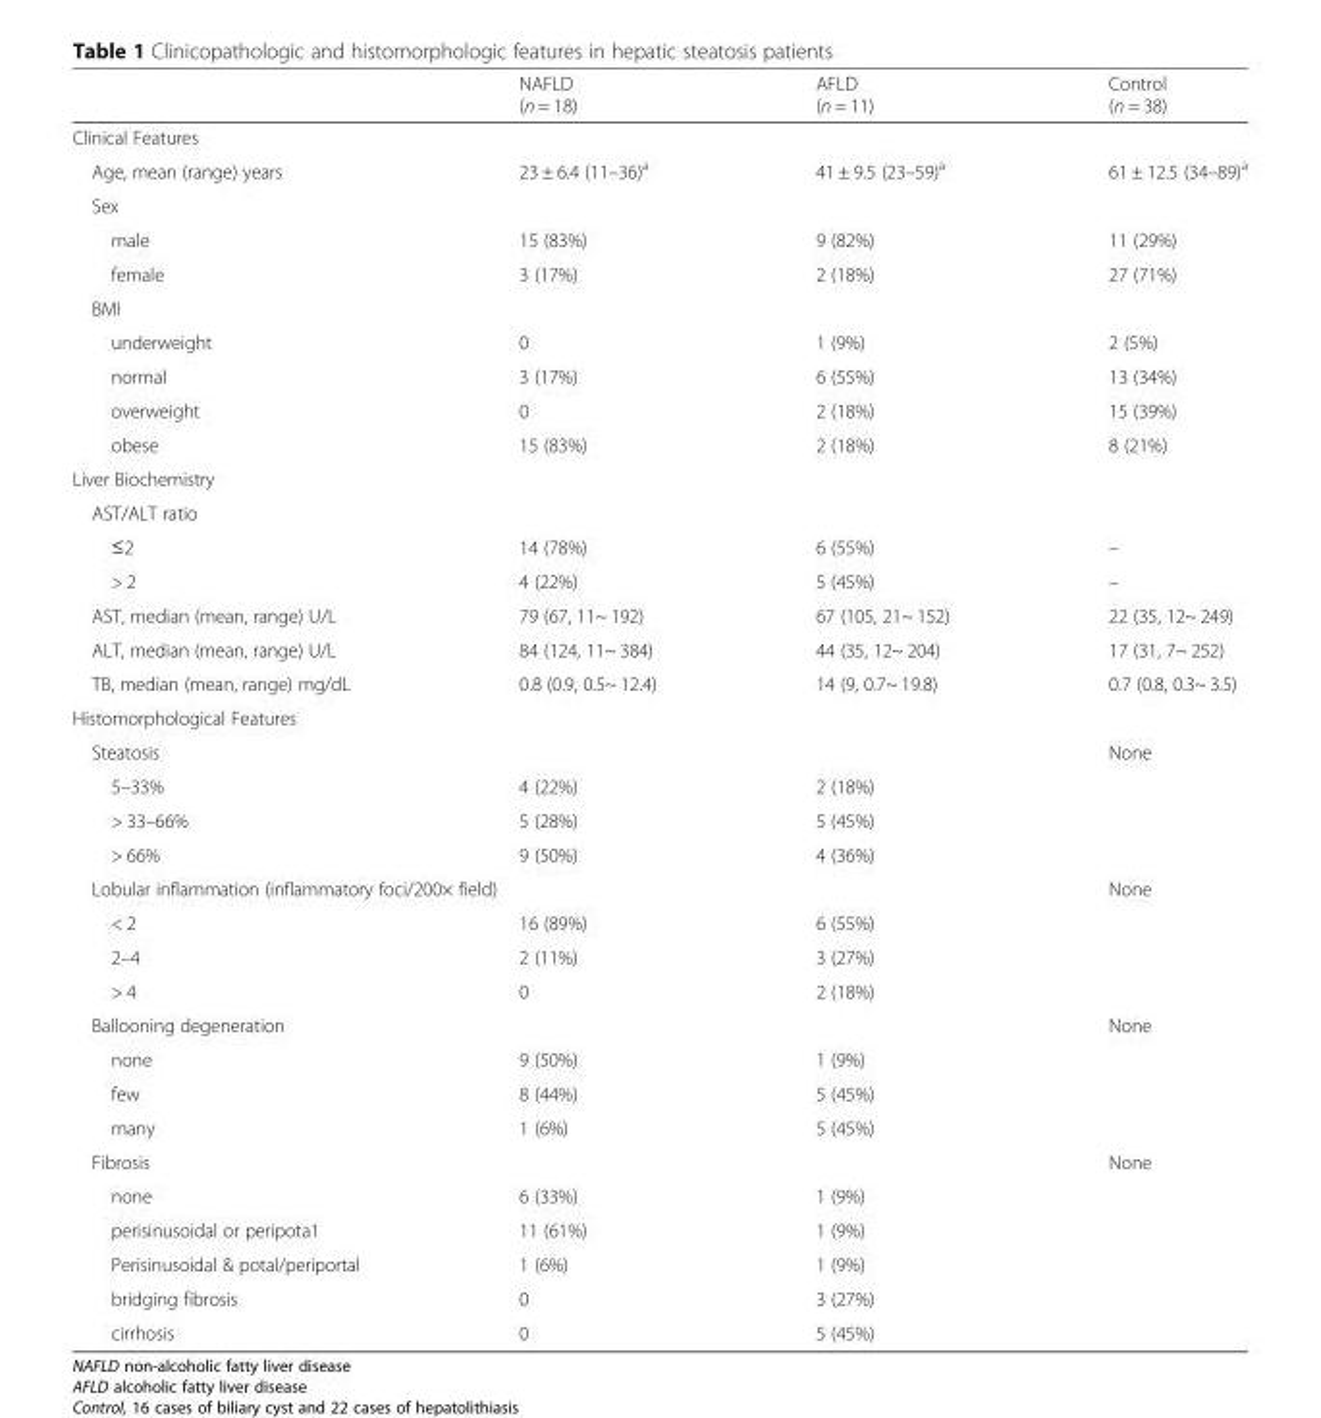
<table><thead><tr><td></td><td>NAFLD (n = 18)</td><td>AFLD (n = 11)</td><td>Control (n = 38)</td></tr></thead><tbody><tr><td colspan="4">Clinical Features</td></tr><tr><td>Age, mean (range) years</td><td>23 ± 6.4 (11–36)<sup>a</sup></td><td>41 ± 9.5 (23–59)<sup>a</sup></td><td>61 ± 12.5 (34–89)<sup>a</sup></td></tr><tr><td colspan="4">Sex</td></tr><tr><td>male</td><td>15 (83%)</td><td>9 (82%)</td><td>11 (29%)</td></tr><tr><td>female</td><td>3 (17%)</td><td>2 (18%)</td><td>27 (71%)</td></tr><tr><td colspan="4">BMI</td></tr><tr><td>underweight</td><td>0</td><td>1 (9%)</td><td>2 (5%)</td></tr><tr><td>normal</td><td>3 (17%)</td><td>6 (55%)</td><td>13 (34%)</td></tr><tr><td>overweight</td><td>0</td><td>2 (18%)</td><td>15 (39%)</td></tr><tr><td>obese</td><td>15 (83%)</td><td>2 (18%)</td><td>8 (21%)</td></tr><tr><td colspan="4">Liver Biochemistry</td></tr><tr><td colspan="4">AST/ALT ratio</td></tr><tr><td>≤2</td><td>14 (78%)</td><td>6 (55%)</td><td>–</td></tr><tr><td>&gt; 2</td><td>4 (22%)</td><td>5 (45%)</td><td>–</td></tr><tr><td>AST, median (mean, range) U/L</td><td>79 (67, 11~ 192)</td><td>67 (105, 21~ 152)</td><td>22 (35, 12~ 249)</td></tr><tr><td>ALT, median (mean, range) U/L</td><td>84 (124, 11~ 384)</td><td>44 (35, 12~ 204)</td><td>17 (31, 7~ 252)</td></tr><tr><td>TB, median (mean, range) mg/dL</td><td>0.8 (0.9, 0.5~ 12.4)</td><td>14 (9, 0.7~ 19.8)</td><td>0.7 (0.8, 0.3~ 3.5)</td></tr><tr><td colspan="4">Histomorphological Features</td></tr><tr><td>Steatosis</td><td></td><td></td><td>None</td></tr><tr><td>5–33%</td><td>4 (22%)</td><td>2 (18%)</td><td></td></tr><tr><td>&gt; 33–66%</td><td>5 (28%)</td><td>5 (45%)</td><td></td></tr><tr><td>&gt; 66%</td><td>9 (50%)</td><td>4 (36%)</td><td></td></tr><tr><td colspan="2">Lobular inflammation (inflammatory foci/200× field)</td><td></td><td>None</td></tr><tr><td>&lt; 2</td><td>16 (89%)</td><td>6 (55%)</td><td></td></tr><tr><td>2–4</td><td>2 (11%)</td><td>3 (27%)</td><td></td></tr><tr><td>&gt; 4</td><td>0</td><td>2 (18%)</td><td></td></tr><tr><td>Ballooning degeneration</td><td></td><td></td><td>None</td></tr><tr><td>none</td><td>9 (50%)</td><td>1 (9%)</td><td></td></tr><tr><td>few</td><td>8 (44%)</td><td>5 (45%)</td><td></td></tr><tr><td>many</td><td>1 (6%)</td><td>5 (45%)</td><td></td></tr><tr><td>Fibrosis</td><td></td><td></td><td>None</td></tr><tr><td>none</td><td>6 (33%)</td><td>1 (9%)</td><td></td></tr><tr><td>perisinusoidal or peripota1</td><td>11 (61%)</td><td>1 (9%)</td><td></td></tr><tr><td>Perisinusoidal &amp; potal/periportal</td><td>1 (6%)</td><td>1 (9%)</td><td></td></tr><tr><td>bridging fibrosis</td><td>0</td><td>3 (27%)</td><td></td></tr><tr><td>cirrhosis</td><td>0</td><td>5 (45%)</td><td></td></tr></tbody></table>